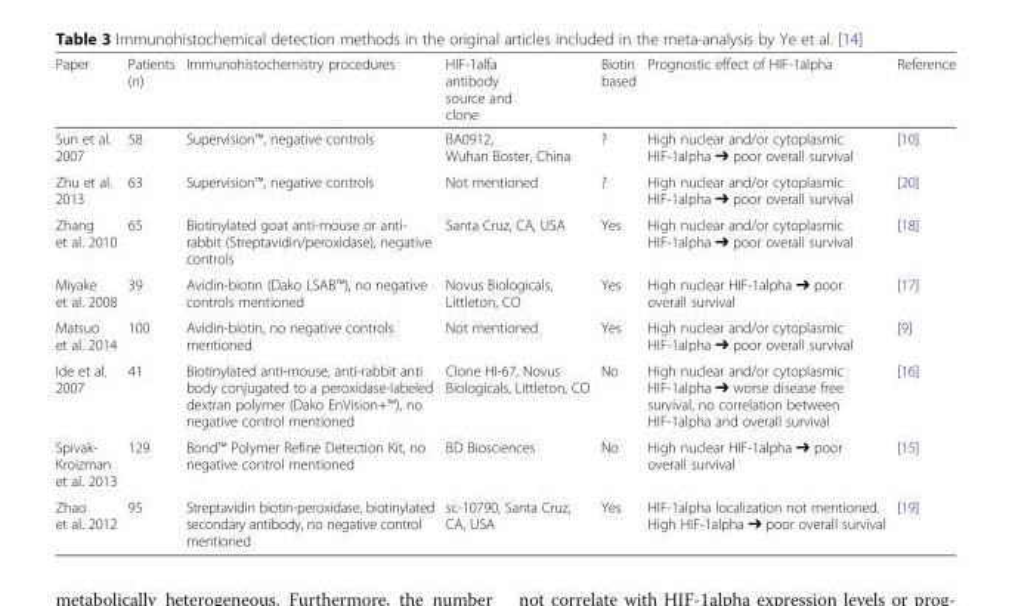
<table><thead><tr><td>Paper</td><td>Patients (n)</td><td>Immunohistochemistry procedures</td><td>HIF-1alfa antibody source and clone</td><td>Biotin based</td><td>Prognostic effect of HIF-1alpha</td><td>Reference</td></tr></thead><tbody><tr><td>Sun et al. 2007</td><td>58</td><td>Supervision™, negative controls</td><td>BA0912, Wuhan Boster, China</td><td>?</td><td>High nuclear and/or cytoplasmic HIF-1alpha ➔ poor overall survival</td><td>[10]</td></tr><tr><td>Zhu et al. 2013</td><td>63</td><td>Supervision™, negative controls</td><td>Not mentioned</td><td>?</td><td>High nuclear and/or cytoplasmic HIF-1alpha ➔ poor overall survival</td><td>[20]</td></tr><tr><td>Zhang et al. 2010</td><td>65</td><td>Biotinylated goat anti-mouse or anti- rabbit (Streptavidin/peroxidase), negative controls</td><td>Santa Cruz, CA, USA</td><td>Yes</td><td>High nuclear and/or cytoplasmic HIF-1alpha ➔ poor overall survival</td><td>[18]</td></tr><tr><td>Miyake et al. 2008</td><td>39</td><td>Avidin-biotin (Dako LSAB™), no negative controls mentioned</td><td>Novus Biologicals, Littleton, CO</td><td>Yes</td><td>High nuclear HIF-1alpha ➔ poor overall survival</td><td>[17]</td></tr><tr><td>Matsuo et al. 2014</td><td>100</td><td>Avidin-biotin, no negative controls mentioned</td><td>Not mentioned</td><td>Yes</td><td>High nuclear and/or cytoplasmic HIF-1alpha ➔ poor overall survival</td><td>[9]</td></tr><tr><td>Ide et al. 2007</td><td>41</td><td>Biotinylated anti-mouse, anti-rabbit anti body conjugated to a peroxidase-labeled dextran polymer (Dako EnVision+™), no negative control mentioned</td><td>Clone HI-67, Novus Biologicals, Littleton, CO</td><td>No</td><td>High nuclear and/or cytoplasmic HIF-1alpha ➔ worse disease free survival, no correlation between HIF-1alpha and overall survival</td><td>[16]</td></tr><tr><td>Spivak- Kroizman et al. 2013</td><td>129</td><td>Bond™ Polymer Refine Detection Kit, no negative control mentioned</td><td>BD Biosciences</td><td>No</td><td>High nuclear HIF-1alpha ➔ poor overall survival</td><td>[15]</td></tr><tr><td>Zhao et al. 2012</td><td>95</td><td>Streptavidin biotin-peroxidase, biotinylated secondary antibody, no negative control mentioned</td><td>sc-10790, Santa Cruz, CA, USA</td><td>Yes</td><td>HIF-1alpha localization not mentioned. High HIF-1alpha ➔ poor overall survival</td><td>[19]</td></tr></tbody></table>